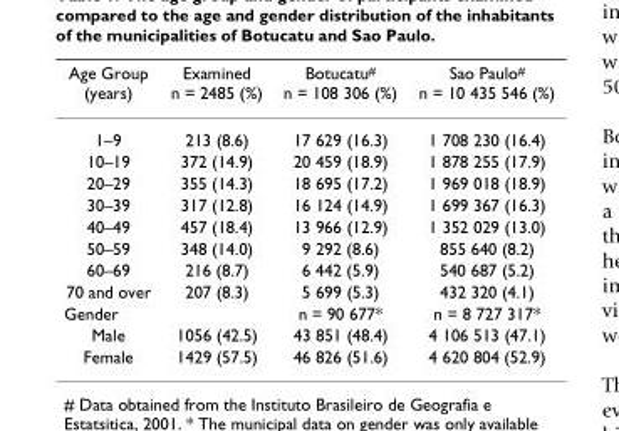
<table><thead><tr><td>Age Group (years)</td><td>Examined n = 2485 (%)</td><td>Botucatu<sup>#</sup> n = 108 306 (%)</td><td>Sao Paulo<sup>#</sup> n = 10 435 546 (%)</td></tr></thead><tbody><tr><td>1–9</td><td>213 (8.6)</td><td>17 629 (16.3)</td><td>1 708 230 (16.4)</td></tr><tr><td>10–19</td><td>372 (14.9)</td><td>20 459 (18.9)</td><td>1 878 255 (17.9)</td></tr><tr><td>20–29</td><td>355 (14.3)</td><td>18 695 (17.2)</td><td>1 969 018 (18.9)</td></tr><tr><td>30–39</td><td>317 (12.8)</td><td>16 124 (14.9)</td><td>1 699 367 (16.3)</td></tr><tr><td>40–49</td><td>457 (18.4)</td><td>13 966 (12.9)</td><td>1 352 029 (13.0)</td></tr><tr><td>50–59</td><td>348 (14.0)</td><td>9 292 (8.6)</td><td>855 640 (8.2)</td></tr><tr><td>60–69</td><td>216 (8.7)</td><td>6 442 (5.9)</td><td>540 687 (5.2)</td></tr><tr><td>70 and over</td><td>207 (8.3)</td><td>5 699 (5.3)</td><td>432 320 (4.1)</td></tr><tr><td>Gender</td><td></td><td>n = 90 677*</td><td>n = 8 727 317*</td></tr><tr><td>Male</td><td>1056 (42.5)</td><td>43 851 (48.4)</td><td>4 106 513 (47.1)</td></tr><tr><td>Female</td><td>1429 (57.5)</td><td>46 826 (51.6)</td><td>4 620 804 (52.9)</td></tr></tbody></table>